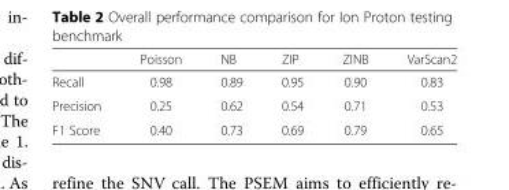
<table><thead><tr><td></td><td>Poisson</td><td>NB</td><td>ZIP</td><td>ZINB</td><td>VarScan2</td></tr></thead><tbody><tr><td>Recall</td><td>0.98</td><td>0.89</td><td>0.95</td><td>0.90</td><td>0.83</td></tr><tr><td>Precision</td><td>0.25</td><td>0.62</td><td>0.54</td><td>0.71</td><td>0.53</td></tr><tr><td>F1 Score</td><td>0.40</td><td>0.73</td><td>0.69</td><td>0.79</td><td>0.65</td></tr></tbody></table>